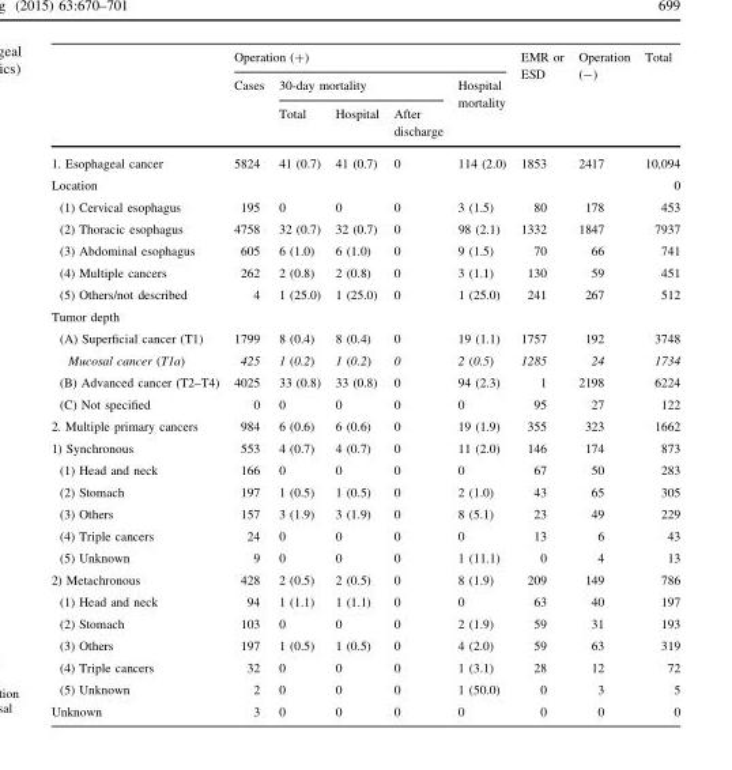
<table><thead><tr><td rowspan="3"></td><td colspan="5">Operation (+)</td><td rowspan="3">EMR or ESD</td><td rowspan="3">Operation (-)</td><td rowspan="3">Total</td></tr><tr><td rowspan="2">Cases</td><td colspan="3">30-day mortality</td><td rowspan="2">Hospital mortality</td></tr><tr><td>Total</td><td>Hospital</td><td>After discharge</td></tr></thead><tbody><tr><td>1. Esophageal cancer</td><td>5824</td><td>41 (0.7)</td><td>41 (0.7)</td><td>0</td><td>114 (2.0)</td><td>1853</td><td>2417</td><td>10,094</td></tr><tr><td>Location</td><td></td><td></td><td></td><td></td><td></td><td></td><td></td><td>0</td></tr><tr><td>(1) Cervical esophagus</td><td>195</td><td>0</td><td>0</td><td>0</td><td>3 (1.5)</td><td>80</td><td>178</td><td>453</td></tr><tr><td>(2) Thoracic esophagus</td><td>4758</td><td>32 (0.7)</td><td>32 (0.7)</td><td>0</td><td>98 (2.1)</td><td>1332</td><td>1847</td><td>7937</td></tr><tr><td>(3) Abdominal esophagus</td><td>605</td><td>6 (1.0)</td><td>6 (1.0)</td><td>0</td><td>9 (1.5)</td><td>70</td><td>66</td><td>741</td></tr><tr><td>(4) Multiple cancers</td><td>262</td><td>2 (0.8)</td><td>2 (0.8)</td><td>0</td><td>3 (1.1)</td><td>130</td><td>59</td><td>451</td></tr><tr><td>(5) Others/not described</td><td>4</td><td>1 (25.0)</td><td>1 (25.0)</td><td>0</td><td>1 (25.0)</td><td>241</td><td>267</td><td>512</td></tr><tr><td colspan="9">Tumor depth</td></tr><tr><td>(A) Superficial cancer (T1)</td><td>1799</td><td>8 (0.4)</td><td>8 (0.4)</td><td>0</td><td>19 (1.1)</td><td>1757</td><td>192</td><td>3748</td></tr><tr><td>Mucosal cancer (T1a)</td><td>425</td><td>1 (0.2)</td><td>1 (0.2)</td><td>0</td><td>2 (0.5)</td><td>1285</td><td>24</td><td>1734</td></tr><tr><td>(B) Advanced cancer (T2–T4)</td><td>4025</td><td>33 (0.8)</td><td>33 (0.8)</td><td>0</td><td>94 (2.3)</td><td>1</td><td>2198</td><td>6224</td></tr><tr><td>(C) Not specified</td><td>0</td><td>0</td><td>0</td><td>0</td><td>0</td><td>95</td><td>27</td><td>122</td></tr><tr><td>2. Multiple primary cancers</td><td>984</td><td>6 (0.6)</td><td>6 (0.6)</td><td>0</td><td>19 (1.9)</td><td>355</td><td>323</td><td>1662</td></tr><tr><td>1) Synchronous</td><td>553</td><td>4 (0.7)</td><td>4 (0.7)</td><td>0</td><td>11 (2.0)</td><td>146</td><td>174</td><td>873</td></tr><tr><td>(1) Head and neck</td><td>166</td><td>0</td><td>0</td><td>0</td><td>0</td><td>67</td><td>50</td><td>283</td></tr><tr><td>(2) Stomach</td><td>197</td><td>1 (0.5)</td><td>1 (0.5)</td><td>0</td><td>2 (1.0)</td><td>43</td><td>65</td><td>305</td></tr><tr><td>(3) Others</td><td>157</td><td>3 (1.9)</td><td>3 (1.9)</td><td>0</td><td>8 (5.1)</td><td>23</td><td>49</td><td>229</td></tr><tr><td>(4) Triple cancers</td><td>24</td><td>0</td><td>0</td><td>0</td><td>0</td><td>13</td><td>6</td><td>43</td></tr><tr><td>(5) Unknown</td><td>9</td><td>0</td><td>0</td><td>0</td><td>1 (11.1)</td><td>0</td><td>4</td><td>13</td></tr><tr><td>2) Metachronous</td><td>428</td><td>2 (0.5)</td><td>2 (0.5)</td><td>0</td><td>8 (1.9)</td><td>209</td><td>149</td><td>786</td></tr><tr><td>(1) Head and neck</td><td>94</td><td>1 (1.1)</td><td>1 (1.1)</td><td>0</td><td>0</td><td>63</td><td>40</td><td>197</td></tr><tr><td>(2) Stomach</td><td>103</td><td>0</td><td>0</td><td>0</td><td>2 (1.9)</td><td>59</td><td>31</td><td>193</td></tr><tr><td>(3) Others</td><td>197</td><td>1 (0.5)</td><td>1 (0.5)</td><td>0</td><td>4 (2.0)</td><td>59</td><td>63</td><td>319</td></tr><tr><td>(4) Triple cancers</td><td>32</td><td>0</td><td>0</td><td>0</td><td>1 (3.1)</td><td>28</td><td>12</td><td>72</td></tr><tr><td>(5) Unknown</td><td>2</td><td>0</td><td>0</td><td>0</td><td>1 (50.0)</td><td>0</td><td>3</td><td>5</td></tr><tr><td>Unknown</td><td>3</td><td>0</td><td>0</td><td>0</td><td>0</td><td>0</td><td>0</td><td>0</td></tr></tbody></table>